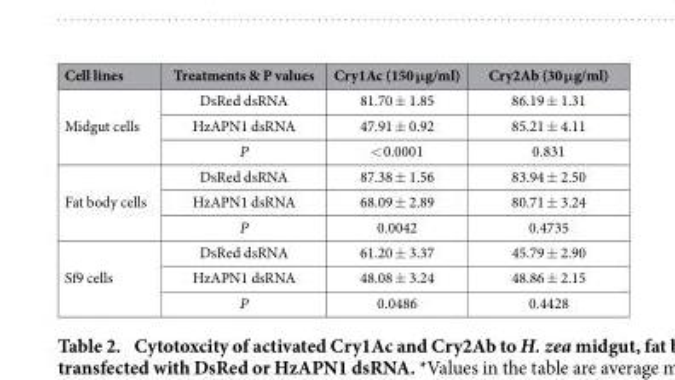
<table><thead><tr><td>Cell lines</td><td>Treatments &amp; P values</td><td>Cry1Ac (150 μg/ml)</td><td>Cry2Ab (30 μg/ml)</td></tr></thead><tbody><tr><td rowspan="3">Midgut cells</td><td>DsRed dsRNA</td><td>81.70 ± 1.85</td><td>86.19 ± 1.31</td></tr><tr><td>HzAPN1 dsRNA</td><td>47.91 ± 0.92</td><td>85.21 ± 4.11</td></tr><tr><td>P</td><td>&lt; 0.0001</td><td>0.831</td></tr><tr><td rowspan="3">Fat body cells</td><td>DsRed dsRNA</td><td>87.38 ± 1.56</td><td>83.94 ± 2.50</td></tr><tr><td>HzAPN1 dsRNA</td><td>68.09 ± 2.89</td><td>80.71 ± 3.24</td></tr><tr><td>P</td><td>0.0042</td><td>0.4735</td></tr><tr><td rowspan="3">Sf9 cells</td><td>DsRed dsRNA</td><td>61.20 ± 3.37</td><td>45.79 ± 2.90</td></tr><tr><td>HzAPN1 dsRNA</td><td>48.08 ± 3.24</td><td>48.86 ± 2.15</td></tr><tr><td>P</td><td>0.0486</td><td>0.4428</td></tr></tbody></table>